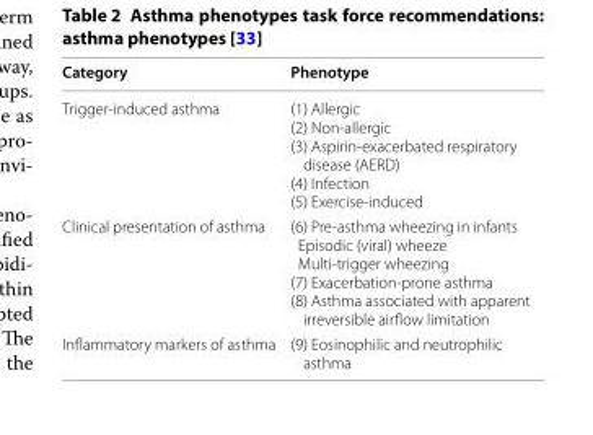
<table><thead><tr><td>Category</td><td>Phenotype</td></tr></thead><tbody><tr><td>Trigger-induced asthma</td><td>(1) Allergic (2) Non-allergic (3) Aspirin-exacerbated respiratory disease (AERD) (4) Infection (5) Exercise-induced</td></tr><tr><td>Clinical presentation of asthma</td><td>(6) Pre-asthma wheezing in infants Episodic (viral) wheeze Multi-trigger wheezing (7) Exacerbation-prone asthma (8) Asthma associated with apparent irreversible airflow limitation</td></tr><tr><td>Inflammatory markers of asthma</td><td>(9) Eosinophilic and neutrophilic asthma</td></tr></tbody></table>